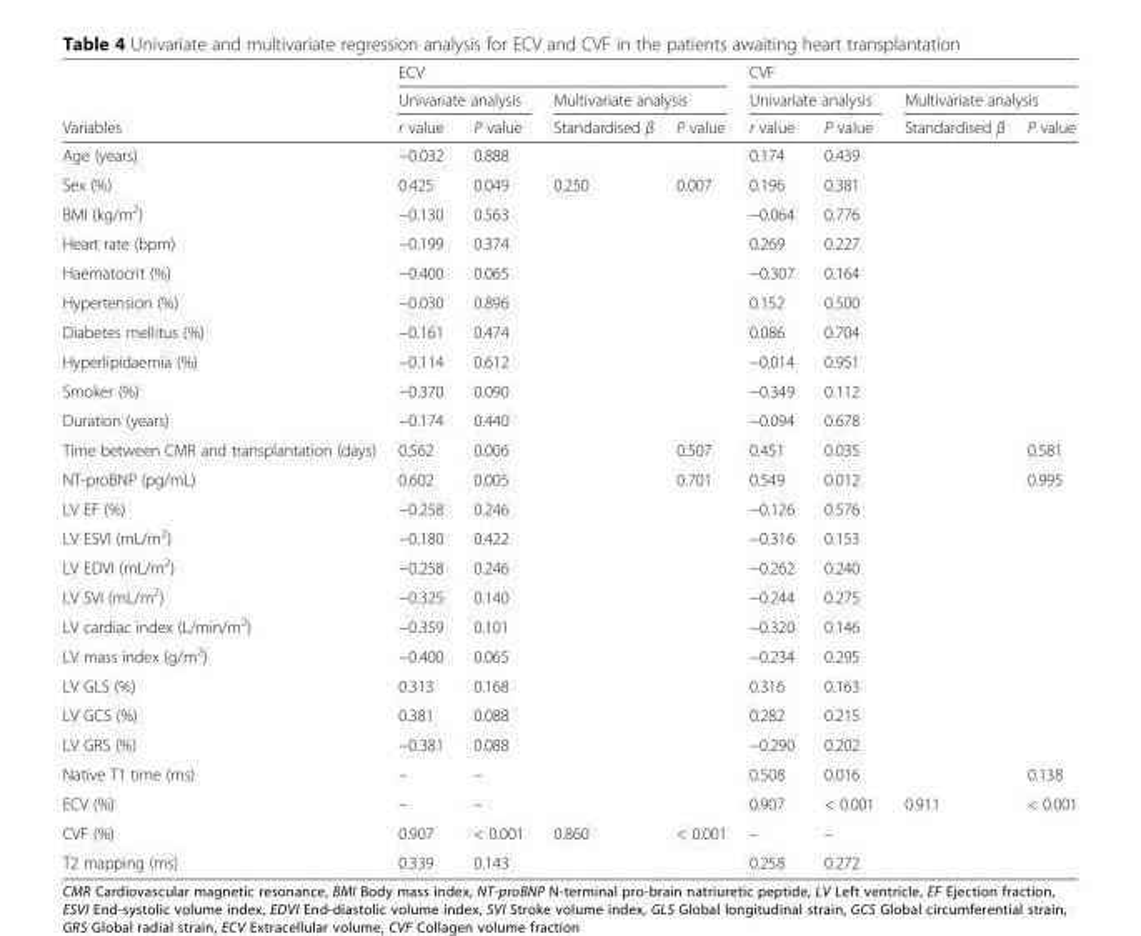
<table><thead><tr><td rowspan="3">Variables</td><td colspan="4">ECV</td><td colspan="4">CVF</td></tr><tr><td colspan="2">Univariate analysis</td><td colspan="2">Multivariate analysis</td><td colspan="2">Univariate analysis</td><td colspan="2">Multivariate analysis</td></tr><tr><td>r value</td><td>P value</td><td>Standardised β</td><td>P value</td><td>r value</td><td>P value</td><td>Standardised β</td><td>P value</td></tr></thead><tbody><tr><td>Age (years)</td><td>−0.032</td><td>0.888</td><td></td><td></td><td>0.174</td><td>0.439</td><td></td><td></td></tr><tr><td>Sex (%)</td><td>0.425</td><td>0.049</td><td>0.250</td><td>0.007</td><td>0.196</td><td>0.381</td><td></td><td></td></tr><tr><td>BMI (kg/m<sup>2</sup>)</td><td>−0.130</td><td>0.563</td><td></td><td></td><td>−0.064</td><td>0.776</td><td></td><td></td></tr><tr><td>Heart rate (bpm)</td><td>−0.199</td><td>0.374</td><td></td><td></td><td>0.269</td><td>0.227</td><td></td><td></td></tr><tr><td>Haematocrit (%)</td><td>−0.400</td><td>0.065</td><td></td><td></td><td>−0.307</td><td>0.164</td><td></td><td></td></tr><tr><td>Hypertension (%)</td><td>−0.030</td><td>0.896</td><td></td><td></td><td>0.152</td><td>0.500</td><td></td><td></td></tr><tr><td>Diabetes mellitus (%)</td><td>−0.161</td><td>0.474</td><td></td><td></td><td>0.086</td><td>0.704</td><td></td><td></td></tr><tr><td>Hyperlipidaemia (%)</td><td>−0.114</td><td>0.612</td><td></td><td></td><td>−0.014</td><td>0.951</td><td></td><td></td></tr><tr><td>Smoker (%)</td><td>−0.370</td><td>0.090</td><td></td><td></td><td>−0.349</td><td>0.112</td><td></td><td></td></tr><tr><td>Duration (years)</td><td>−0.174</td><td>0.440</td><td></td><td></td><td>−0.094</td><td>0.678</td><td></td><td></td></tr><tr><td>Time between CMR and transplantation (days)</td><td>0.562</td><td>0.006</td><td></td><td>0.507</td><td>0.451</td><td>0.035</td><td></td><td>0.581</td></tr><tr><td>NT-proBNP (pg/mL)</td><td>0.602</td><td>0.005</td><td></td><td>0.701</td><td>0.549</td><td>0.012</td><td></td><td>0.995</td></tr><tr><td>LV EF (%)</td><td>−0.258</td><td>0.246</td><td></td><td></td><td>−0.126</td><td>0.576</td><td></td><td></td></tr><tr><td>LV ESVI (mL/m<sup>2</sup>)</td><td>−0.180</td><td>0.422</td><td></td><td></td><td>−0.316</td><td>0.153</td><td></td><td></td></tr><tr><td>LV EDVI (mL/m<sup>2</sup>)</td><td>−0.258</td><td>0.246</td><td></td><td></td><td>−0.262</td><td>0.240</td><td></td><td></td></tr><tr><td>LV SVI (mL/m<sup>2</sup>)</td><td>−0.325</td><td>0.140</td><td></td><td></td><td>−0.244</td><td>0.275</td><td></td><td></td></tr><tr><td>LV cardiac index (L/min/m<sup>2</sup>)</td><td>−0.359</td><td>0.101</td><td></td><td></td><td>−0.320</td><td>0.146</td><td></td><td></td></tr><tr><td>LV mass index (g/m<sup>2</sup>)</td><td>−0.400</td><td>0.065</td><td></td><td></td><td>−0.234</td><td>0.295</td><td></td><td></td></tr><tr><td>LV GLS (%)</td><td>0.313</td><td>0.168</td><td></td><td></td><td>0.316</td><td>0.163</td><td></td><td></td></tr><tr><td>LV GCS (%)</td><td>0.381</td><td>0.088</td><td></td><td></td><td>0.282</td><td>0.215</td><td></td><td></td></tr><tr><td>LV GRS (%)</td><td>−0.381</td><td>0.088</td><td></td><td></td><td>−0.290</td><td>0.202</td><td></td><td></td></tr><tr><td>Native T1 time (ms)</td><td>–</td><td>–</td><td></td><td></td><td>0.508</td><td>0.016</td><td></td><td>0.138</td></tr><tr><td>ECV (%)</td><td>–</td><td>–</td><td></td><td></td><td>0.907</td><td>&lt; 0.001</td><td>0.911</td><td>&lt; 0.001</td></tr><tr><td>CVF (%)</td><td>0.907</td><td>&lt; 0.001</td><td>0.860</td><td>&lt; 0.001</td><td>–</td><td>–</td><td></td><td></td></tr><tr><td>T2 mapping (ms)</td><td>0.339</td><td>0.143</td><td></td><td></td><td>0.258</td><td>0.272</td><td></td><td></td></tr></tbody></table>